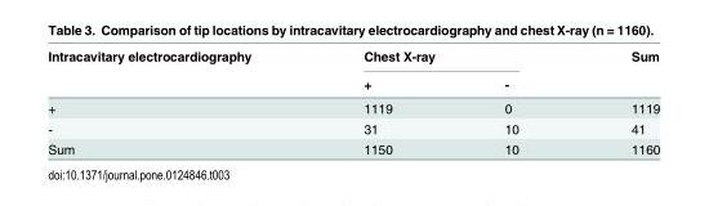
<table><thead><tr><td rowspan="2">Intracavitary electrocardiography</td><td colspan="2">Chest X-ray</td><td rowspan="2">Sum</td></tr><tr><td>+</td><td>-</td></tr></thead><tbody><tr><td>+</td><td>1119</td><td>0</td><td>1119</td></tr><tr><td>-</td><td>31</td><td>10</td><td>41</td></tr><tr><td>Sum</td><td>1150</td><td>10</td><td>1160</td></tr></tbody></table>